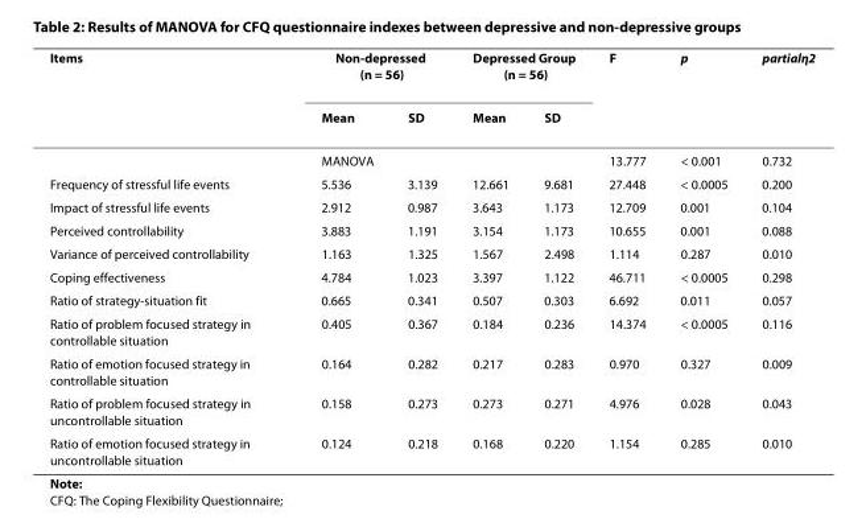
<table><thead><tr><td rowspan="2">Items</td><td colspan="2">Non-depressed (n = 56)</td><td colspan="2">Depressed Group (n = 56)</td><td rowspan="2">F</td><td rowspan="2">p</td><td rowspan="2">partialη2</td></tr><tr><td>Mean</td><td>SD</td><td>Mean</td><td>SD</td></tr></thead><tbody><tr><td></td><td>MANOVA</td><td></td><td></td><td></td><td>13.777</td><td>&lt; 0.001</td><td>0.732</td></tr><tr><td>Frequency of stressful life events</td><td>5.536</td><td>3.139</td><td>12.661</td><td>9.681</td><td>27.448</td><td>&lt; 0.0005</td><td>0.200</td></tr><tr><td>Impact of stressful life events</td><td>2.912</td><td>0.987</td><td>3.643</td><td>1.173</td><td>12.709</td><td>0.001</td><td>0.104</td></tr><tr><td>Perceived controllability</td><td>3.883</td><td>1.191</td><td>3.154</td><td>1.173</td><td>10.655</td><td>0.001</td><td>0.088</td></tr><tr><td>Variance of perceived controllability</td><td>1.163</td><td>1.325</td><td>1.567</td><td>2.498</td><td>1.114</td><td>0.287</td><td>0.010</td></tr><tr><td>Coping effectiveness</td><td>4.784</td><td>1.023</td><td>3.397</td><td>1.122</td><td>46.711</td><td>&lt; 0.0005</td><td>0.298</td></tr><tr><td>Ratio of strategy-situation fit</td><td>0.665</td><td>0.341</td><td>0.507</td><td>0.303</td><td>6.692</td><td>0.011</td><td>0.057</td></tr><tr><td>Ratio of problem focused strategy in controllable situation</td><td>0.405</td><td>0.367</td><td>0.184</td><td>0.236</td><td>14.374</td><td>&lt; 0.0005</td><td>0.116</td></tr><tr><td>Ratio of emotion focused strategy in controllable situation</td><td>0.164</td><td>0.282</td><td>0.217</td><td>0.283</td><td>0.970</td><td>0.327</td><td>0.009</td></tr><tr><td>Ratio of problem focused strategy in uncontrollable situation</td><td>0.158</td><td>0.273</td><td>0.273</td><td>0.271</td><td>4.976</td><td>0.028</td><td>0.043</td></tr><tr><td>Ratio of emotion focused strategy in uncontrollable situation</td><td>0.124</td><td>0.218</td><td>0.168</td><td>0.220</td><td>1.154</td><td>0.285</td><td>0.010</td></tr></tbody></table>